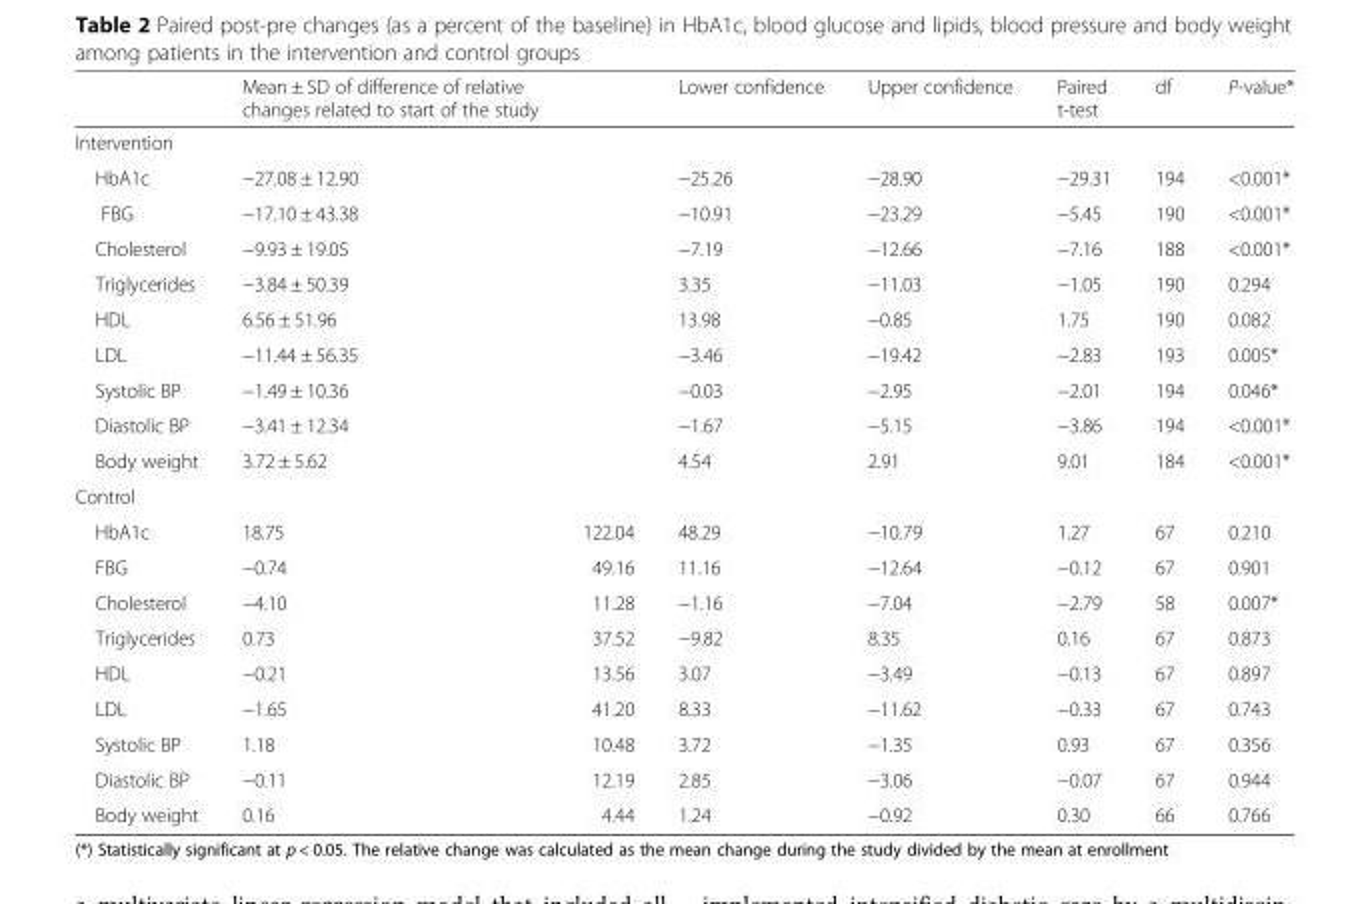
<table><thead><tr><td></td><td>Mean ± SD of difference of relative changes related to start of the study</td><td></td><td>Lower confidence</td><td>Upper confidence</td><td>Paired t-test</td><td>df</td><td>P-value*</td></tr></thead><tbody><tr><td colspan="8">Intervention</td></tr><tr><td>HbA1c</td><td>−27.08 ± 12.90</td><td></td><td>−25.26</td><td>−28.90</td><td>−29.31</td><td>194</td><td>&lt;0.001*</td></tr><tr><td>FBG</td><td>−17.10 ± 43.38</td><td></td><td>−10.91</td><td>−23.29</td><td>−5.45</td><td>190</td><td>&lt;0.001*</td></tr><tr><td>Cholesterol</td><td>−9.93 ± 19.05</td><td></td><td>−7.19</td><td>−12.66</td><td>−7.16</td><td>188</td><td>&lt;0.001*</td></tr><tr><td>Triglycerides</td><td>−3.84 ± 50.39</td><td></td><td>3.35</td><td>−11.03</td><td>−1.05</td><td>190</td><td>0.294</td></tr><tr><td>HDL</td><td>6.56 ± 51.96</td><td></td><td>13.98</td><td>−0.85</td><td>1.75</td><td>190</td><td>0.082</td></tr><tr><td>LDL</td><td>−11.44 ± 56.35</td><td></td><td>−3.46</td><td>−19.42</td><td>−2.83</td><td>193</td><td>0.005*</td></tr><tr><td>Systolic BP</td><td>−1.49 ± 10.36</td><td></td><td>−0.03</td><td>−2.95</td><td>−2.01</td><td>194</td><td>0.046*</td></tr><tr><td>Diastolic BP</td><td>−3.41 ± 12.34</td><td></td><td>−1.67</td><td>−5.15</td><td>−3.86</td><td>194</td><td>&lt;0.001*</td></tr><tr><td>Body weight</td><td>3.72 ± 5.62</td><td></td><td>4.54</td><td>2.91</td><td>9.01</td><td>184</td><td>&lt;0.001*</td></tr><tr><td colspan="8">Control</td></tr><tr><td>HbA1c</td><td>18.75</td><td>122.04</td><td>48.29</td><td>−10.79</td><td>1.27</td><td>67</td><td>0.210</td></tr><tr><td>FBG</td><td>−0.74</td><td>49.16</td><td>11.16</td><td>−12.64</td><td>−0.12</td><td>67</td><td>0.901</td></tr><tr><td>Cholesterol</td><td>−4.10</td><td>11.28</td><td>−1.16</td><td>−7.04</td><td>−2.79</td><td>58</td><td>0.007*</td></tr><tr><td>Triglycerides</td><td>0.73</td><td>37.52</td><td>−9.82</td><td>8.35</td><td>0.16</td><td>67</td><td>0.873</td></tr><tr><td>HDL</td><td>−0.21</td><td>13.56</td><td>3.07</td><td>−3.49</td><td>−0.13</td><td>67</td><td>0.897</td></tr><tr><td>LDL</td><td>−1.65</td><td>41.20</td><td>8.33</td><td>−11.62</td><td>−0.33</td><td>67</td><td>0.743</td></tr><tr><td>Systolic BP</td><td>1.18</td><td>10.48</td><td>3.72</td><td>−1.35</td><td>0.93</td><td>67</td><td>0.356</td></tr><tr><td>Diastolic BP</td><td>−0.11</td><td>12.19</td><td>2.85</td><td>−3.06</td><td>−0.07</td><td>67</td><td>0.944</td></tr><tr><td>Body weight</td><td>0.16</td><td>4.44</td><td>1.24</td><td>−0.92</td><td>0.30</td><td>66</td><td>0.766</td></tr></tbody></table>